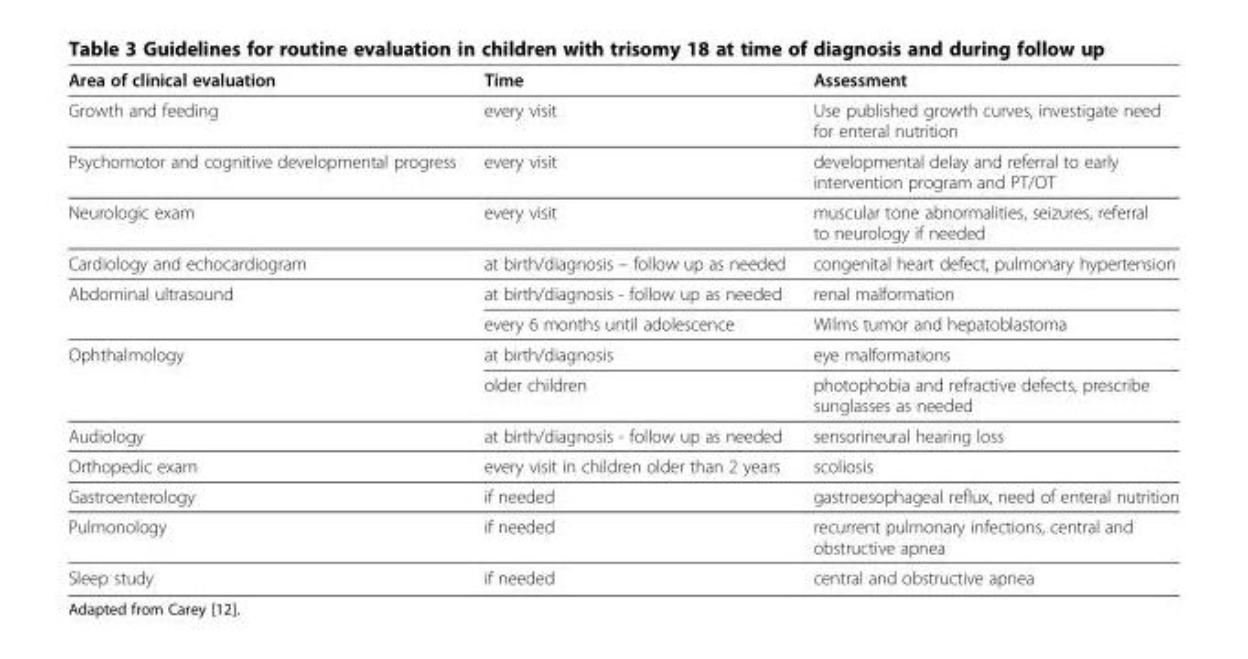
<table><thead><tr><td>Area of clinical evaluation</td><td>Time</td><td>Assessment</td></tr></thead><tbody><tr><td>Growth and feeding</td><td>every visit</td><td>Use published growth curves, investigate need for enteral nutrition</td></tr><tr><td>Psychomotor and cognitive developmental progress</td><td>every visit</td><td>developmental delay and referral to early intervention program and PT/OT</td></tr><tr><td>Neurologic exam</td><td>every visit</td><td>muscular tone abnormalities, seizures, referral to neurology if needed</td></tr><tr><td>Cardiology and echocardiogram</td><td>at birth/diagnosis – follow up as needed</td><td>congenital heart defect, pulmonary hypertension</td></tr><tr><td rowspan="2">Abdominal ultrasound</td><td>at birth/diagnosis - follow up as needed</td><td>renal malformation</td></tr><tr><td>every 6 months until adolescence</td><td>Wilms tumor and hepatoblastoma</td></tr><tr><td rowspan="2">Ophthalmology</td><td>at birth/diagnosis</td><td>eye malformations</td></tr><tr><td>older children</td><td>photophobia and refractive defects, prescribe sunglasses as needed</td></tr><tr><td>Audiology</td><td>at birth/diagnosis - follow up as needed</td><td>sensorineural hearing loss</td></tr><tr><td>Orthopedic exam</td><td>every visit in children older than 2 years</td><td>scoliosis</td></tr><tr><td>Gastroenterology</td><td>if needed</td><td>gastroesophageal reflux, need of enteral nutrition</td></tr><tr><td>Pulmonology</td><td>if needed</td><td>recurrent pulmonary infections, central and obstructive apnea</td></tr><tr><td>Sleep study</td><td>if needed</td><td>central and obstructive apnea</td></tr></tbody></table>